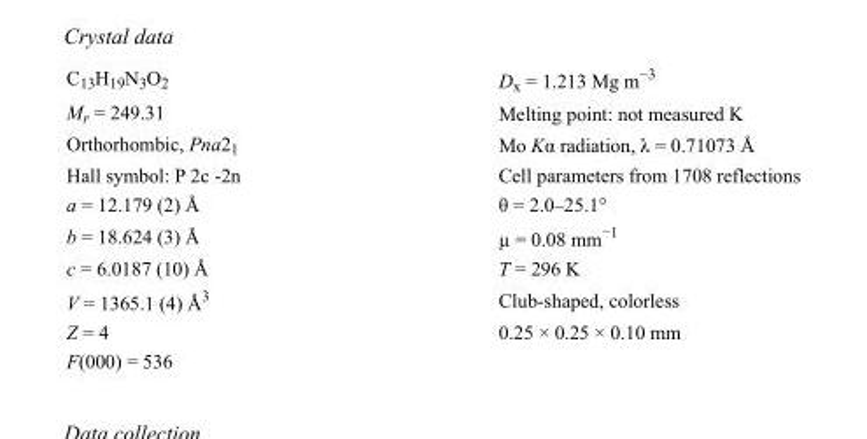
<table><tbody><tr><td>C<sub>13</sub>H<sub>19</sub>N<sub>3</sub>O<sub>2</sub></td><td>D<sub>x</sub> = 1.213 Mg m<sup>−3</sup></td></tr><tr><td>M<sub>r</sub> = 249.31</td><td>Melting point: not measured K</td></tr><tr><td>Orthorhombic, Pna2<sub>1</sub></td><td>Mo Kα radiation, λ = 0.71073 Å</td></tr><tr><td>Hall symbol: P 2c -2n</td><td>Cell parameters from 1708 reflections</td></tr><tr><td>a = 12.179 (2) Å</td><td>θ = 2.0–25.1°</td></tr><tr><td>b = 18.624 (3) Å</td><td>µ = 0.08 mm<sup>−1</sup></td></tr><tr><td>c = 6.0187 (10) Å</td><td>T = 296 K</td></tr><tr><td>V = 1365.1 (4) Å<sup>3</sup></td><td>Club-shaped, colorless</td></tr><tr><td>Z = 4</td><td>0.25 × 0.25 × 0.10 mm</td></tr><tr><td>F(000) = 536</td><td></td></tr></tbody></table>